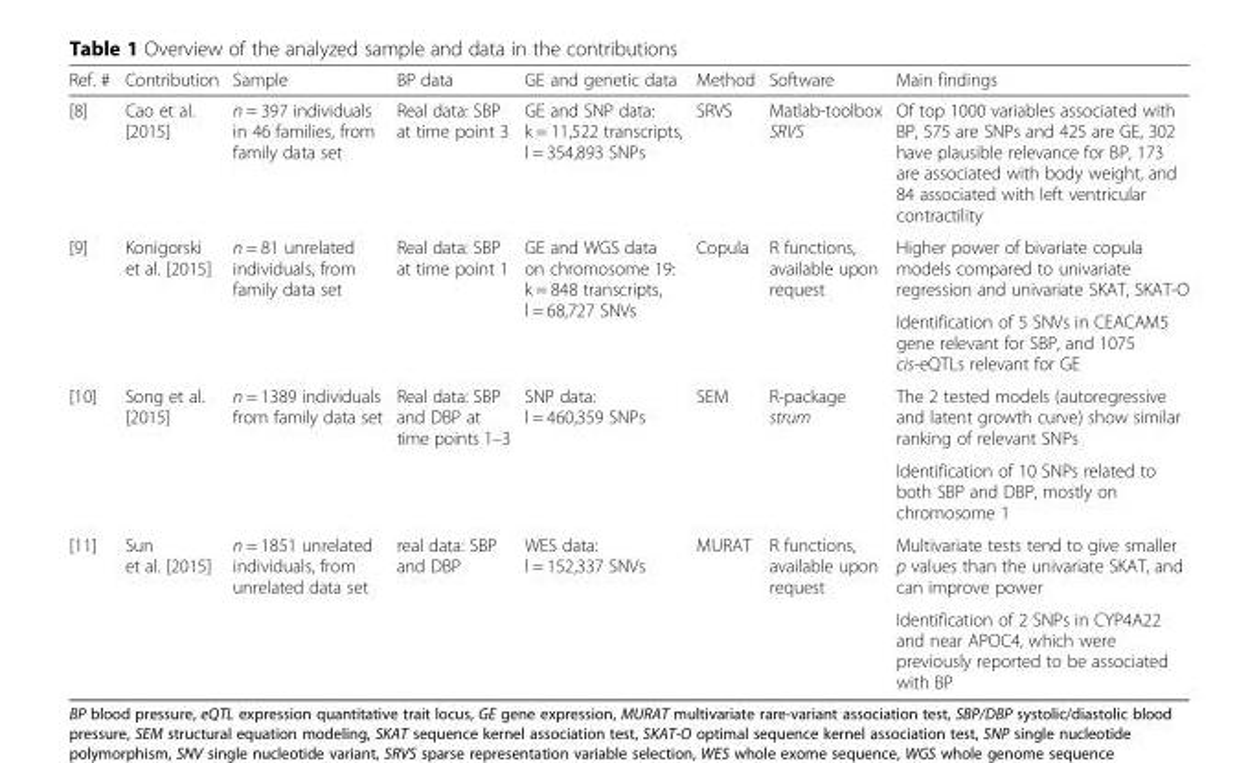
<table><thead><tr><td>Ref. #</td><td>Contribution</td><td>Sample</td><td>BP data</td><td>GE and genetic data</td><td>Method</td><td>Software</td><td>Main findings</td></tr></thead><tbody><tr><td>[8]</td><td>Cao et al. [2015]</td><td>n = 397 individuals in 46 families, from family data set</td><td>Real data: SBP at time point 3</td><td>GE and SNP data: k = 11,522 transcripts, l = 354,893 SNPs</td><td>SRVS</td><td>Matlab-toolbox SRVS</td><td>Of top 1000 variables associated with BP, 575 are SNPs and 425 are GE, 302 have plausible relevance for BP, 173 are associated with body weight, and 84 associated with left ventricular contractility</td></tr><tr><td rowspan="2">[9]</td><td rowspan="2">Konigorski et al. [2015]</td><td rowspan="2">n = 81 unrelated individuals, from family data set</td><td rowspan="2">Real data: SBP at time point 1</td><td rowspan="2">GE and WGS data on chromosome 19: k = 848 transcripts, l = 68,727 SNVs</td><td rowspan="2">Copula</td><td rowspan="2">R functions, available upon request</td><td>Higher power of bivariate copula models compared to univariate regression and univariate SKAT, SKAT-O</td></tr><tr><td>Identification of 5 SNVs in CEACAM5 gene relevant for SBP, and 1075 cis-eQTLs relevant for GE</td></tr><tr><td rowspan="2">[10]</td><td rowspan="2">Song et al. [2015]</td><td rowspan="2">n = 1389 individuals from family data set</td><td rowspan="2">Real data: SBP and DBP at time points 1–3</td><td rowspan="2">SNP data: l = 460,359 SNPs</td><td rowspan="2">SEM</td><td rowspan="2">R-package strum</td><td>The 2 tested models (autoregressive and latent growth curve) show similar ranking of relevant SNPs</td></tr><tr><td>Identification of 10 SNPs related to both SBP and DBP, mostly on chromosome 1</td></tr><tr><td rowspan="2">[11]</td><td rowspan="2">Sun et al. [2015]</td><td rowspan="2">n = 1851 unrelated individuals, from unrelated data set</td><td rowspan="2">real data: SBP and DBP</td><td rowspan="2">WES data: l = 152,337 SNVs</td><td rowspan="2">MURAT</td><td rowspan="2">R functions, available upon request</td><td>Multivariate tests tend to give smaller p values than the univariate SKAT, and can improve power</td></tr><tr><td>Identification of 2 SNPs in CYP4A22 and near APOC4, which were previously reported to be associated with BP</td></tr></tbody></table>